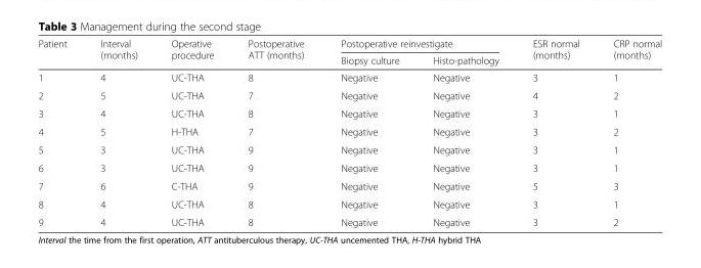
<table><thead><tr><td rowspan="2">Patient</td><td rowspan="2">Interval (months)</td><td rowspan="2">Operative procedure</td><td rowspan="2">Postoperative ATT (months)</td><td colspan="2">Postoperative reinvestigate</td><td rowspan="2">ESR normal (months)</td><td rowspan="2">CRP normal (months)</td></tr><tr><td>Biopsy culture</td><td>Histo-pathology</td></tr></thead><tbody><tr><td>1</td><td>4</td><td>UC-THA</td><td>8</td><td>Negative</td><td>Negative</td><td>3</td><td>1</td></tr><tr><td>2</td><td>5</td><td>UC-THA</td><td>7</td><td>Negative</td><td>Negative</td><td>4</td><td>2</td></tr><tr><td>3</td><td>4</td><td>UC-THA</td><td>8</td><td>Negative</td><td>Negative</td><td>3</td><td>1</td></tr><tr><td>4</td><td>5</td><td>H-THA</td><td>7</td><td>Negative</td><td>Negative</td><td>3</td><td>2</td></tr><tr><td>5</td><td>3</td><td>UC-THA</td><td>9</td><td>Negative</td><td>Negative</td><td>3</td><td>1</td></tr><tr><td>6</td><td>3</td><td>UC-THA</td><td>9</td><td>Negative</td><td>Negative</td><td>3</td><td>1</td></tr><tr><td>7</td><td>6</td><td>C-THA</td><td>9</td><td>Negative</td><td>Negative</td><td>5</td><td>3</td></tr><tr><td>8</td><td>4</td><td>UC-THA</td><td>8</td><td>Negative</td><td>Negative</td><td>3</td><td>1</td></tr><tr><td>9</td><td>4</td><td>UC-THA</td><td>8</td><td>Negative</td><td>Negative</td><td>3</td><td>2</td></tr></tbody></table>